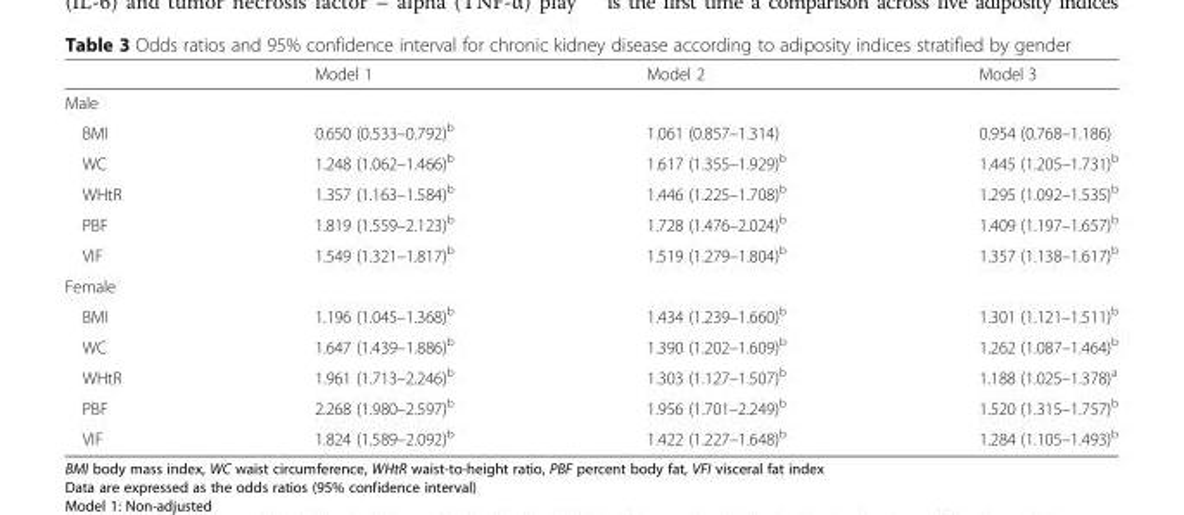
<table><thead><tr><td></td><td>Model 1</td><td>Model 2</td><td>Model 3</td></tr></thead><tbody><tr><td colspan="4">Male</td></tr><tr><td>BMI</td><td>0.650 (0.533–0.792)<sup>b</sup></td><td>1.061 (0.857–1.314)</td><td>0.954 (0.768–1.186)</td></tr><tr><td>WC</td><td>1.248 (1.062–1.466)<sup>b</sup></td><td>1.617 (1.355–1.929)<sup>b</sup></td><td>1.445 (1.205–1.731)<sup>b</sup></td></tr><tr><td>WHtR</td><td>1.357 (1.163–1.584)<sup>b</sup></td><td>1.446 (1.225–1.708)<sup>b</sup></td><td>1.295 (1.092–1.535)<sup>b</sup></td></tr><tr><td>PBF</td><td>1.819 (1.559–2.123)<sup>b</sup></td><td>1.728 (1.476–2.024)<sup>b</sup></td><td>1.409 (1.197–1.657)<sup>b</sup></td></tr><tr><td>VIF</td><td>1.549 (1.321–1.817)<sup>b</sup></td><td>1.519 (1.279–1.804)<sup>b</sup></td><td>1.357 (1.138–1.617)<sup>b</sup></td></tr><tr><td colspan="4">Female</td></tr><tr><td>BMI</td><td>1.196 (1.045–1.368)<sup>b</sup></td><td>1.434 (1.239–1.660)<sup>b</sup></td><td>1.301 (1.121–1.511)<sup>b</sup></td></tr><tr><td>WC</td><td>1.647 (1.439–1.886)<sup>b</sup></td><td>1.390 (1.202–1.609)<sup>b</sup></td><td>1.262 (1.087–1.464)<sup>b</sup></td></tr><tr><td>WHtR</td><td>1.961 (1.713–2.246)<sup>b</sup></td><td>1.303 (1.127–1.507)<sup>b</sup></td><td>1.188 (1.025–1.378)<sup>a</sup></td></tr><tr><td>PBF</td><td>2.268 (1.980–2.597)<sup>b</sup></td><td>1.956 (1.701–2.249)<sup>b</sup></td><td>1.520 (1.315–1.757)<sup>b</sup></td></tr><tr><td>VIF</td><td>1.824 (1.589–2.092)<sup>b</sup></td><td>1.422 (1.227–1.648)<sup>b</sup></td><td>1.284 (1.105–1.493)<sup>b</sup></td></tr></tbody></table>